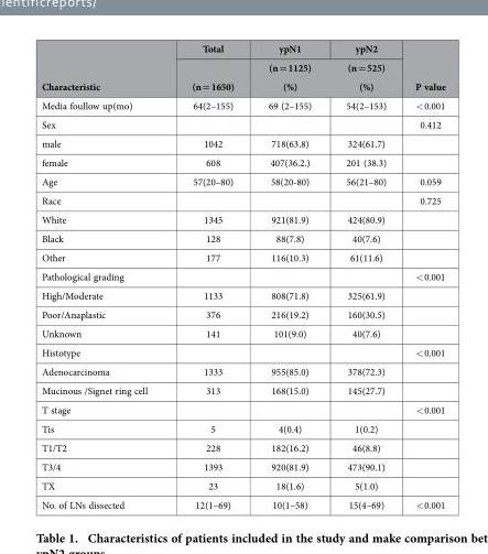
<table><thead><tr><td rowspan="2">Characteristic</td><td rowspan="2">Total (n = 1650)</td><td rowspan="2">ypN1 (n = 1125) (%)</td><td rowspan="2">ypN2 (n = 525) (%)</td><td rowspan="2">P value</td></tr><tr></tr></thead><tbody><tr><td>Media foullow up(mo)</td><td>64(2–155)</td><td>69 (2–155)</td><td>54(2–153)</td><td>&lt; 0.001</td></tr><tr><td>Sex</td><td></td><td></td><td></td><td>0.412</td></tr><tr><td>male</td><td>1042</td><td>718(63.8)</td><td>324(61.7)</td><td></td></tr><tr><td>female</td><td>608</td><td>407(36.2.)</td><td>201 (38.3)</td><td></td></tr><tr><td>Age</td><td>57(20–80)</td><td>58(20-80)</td><td>56(21–80)</td><td>0.059</td></tr><tr><td>Race</td><td></td><td></td><td></td><td>0.725</td></tr><tr><td>White</td><td>1345</td><td>921(81.9)</td><td>424(80.9)</td><td></td></tr><tr><td>Black</td><td>128</td><td>88(7.8)</td><td>40(7.6)</td><td></td></tr><tr><td>Other</td><td>177</td><td>116(10.3)</td><td>61(11.6)</td><td></td></tr><tr><td>Pathological grading</td><td></td><td></td><td></td><td>&lt; 0.001</td></tr><tr><td>High/Moderate</td><td>1133</td><td>808(71.8)</td><td>325(61.9)</td><td></td></tr><tr><td>Poor/Anaplastic</td><td>376</td><td>216(19.2)</td><td>160(30.5)</td><td></td></tr><tr><td>Unknown</td><td>141</td><td>101(9.0)</td><td>40(7.6)</td><td></td></tr><tr><td>Histotype</td><td></td><td></td><td></td><td>&lt; 0.001</td></tr><tr><td>Adenocarcinoma</td><td>1333</td><td>955(85.0)</td><td>378(72.3)</td><td></td></tr><tr><td>Mucinous /Signet ring cell</td><td>313</td><td>168(15.0)</td><td>145(27.7)</td><td></td></tr><tr><td>T stage</td><td></td><td></td><td></td><td>&lt; 0.001</td></tr><tr><td>Tis</td><td>5</td><td>4(0.4)</td><td>1(0.2)</td><td></td></tr><tr><td>T1/T2</td><td>228</td><td>182(16.2)</td><td>46(8.8)</td><td></td></tr><tr><td>T3/4</td><td>1393</td><td>920(81.9)</td><td>473(90.1)</td><td></td></tr><tr><td>TX</td><td>23</td><td>18(1.6)</td><td>5(1.0)</td><td></td></tr><tr><td>No. of LNs dissected</td><td>12(1–69)</td><td>10(1–58)</td><td>15(4–69)</td><td>&lt; 0.001</td></tr></tbody></table>